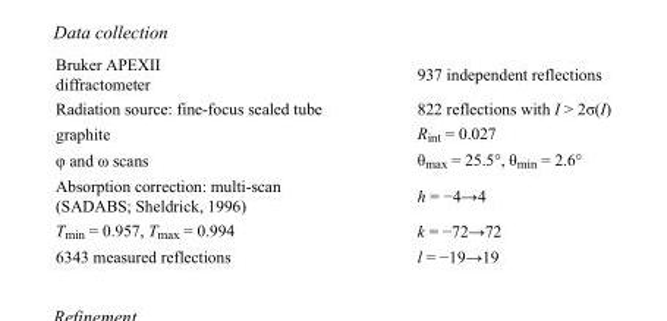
<table><tbody><tr><td>Bruker APEXII diffractometer</td><td>937 independent reflections</td></tr><tr><td>Radiation source: fine-focus sealed tube</td><td>822 reflections with I &gt; 2σ(I)</td></tr><tr><td>graphite</td><td>R<sub>int</sub> = 0.027</td></tr><tr><td>φ and ω scans</td><td>θ<sub>max</sub> = 25.5°, θ<sub>min</sub> = 2.6°</td></tr><tr><td>Absorption correction: multi-scan (SADABS; Sheldrick, 1996)</td><td>h = −4→4</td></tr><tr><td>T<sub>min</sub> = 0.957, T<sub>max</sub> = 0.994</td><td>k = −72→72</td></tr><tr><td>6343 measured reflections</td><td>l = −19→19</td></tr></tbody></table>